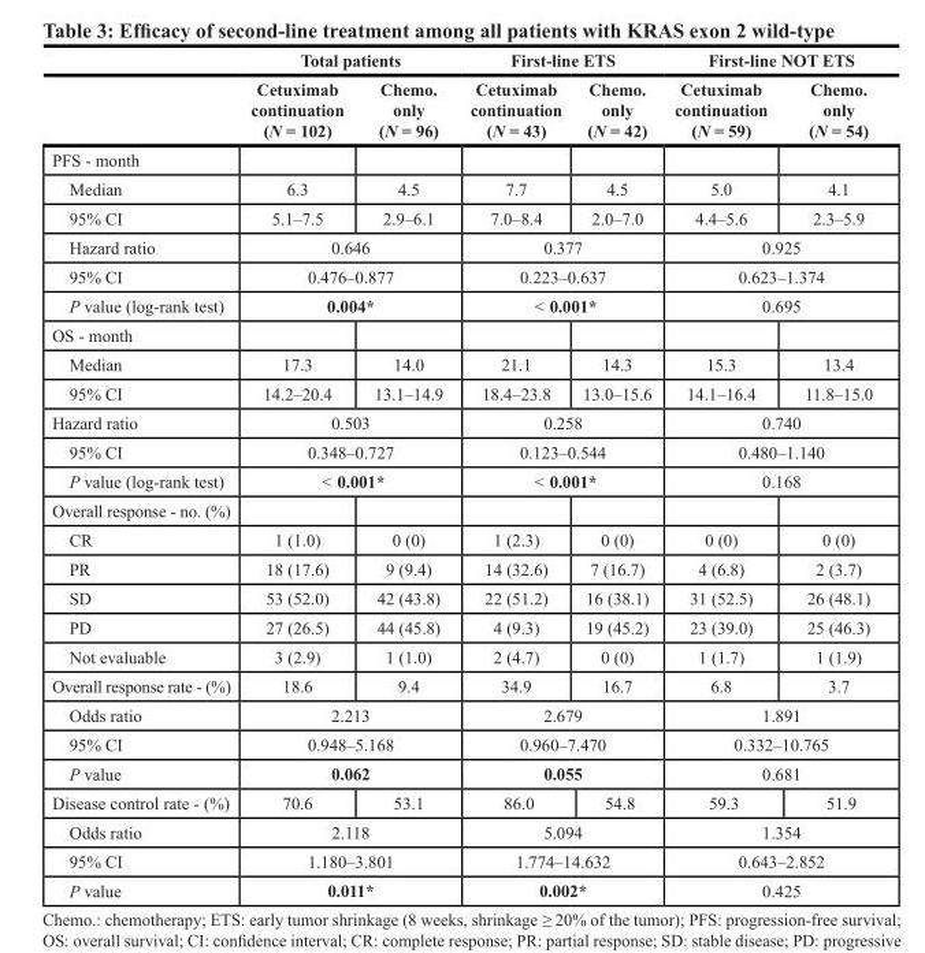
<table><thead><tr><td rowspan="2"></td><td colspan="2">Total patients</td><td colspan="2">First-line ETS</td><td colspan="2">First-line NOT ETS</td></tr><tr><td>Cetuximab continuation (N = 102)</td><td>Chemo. only (N = 96)</td><td>Cetuximab continuation (N = 43)</td><td>Chemo. only (N = 42)</td><td>Cetuximab continuation (N = 59)</td><td>Chemo. only (N = 54)</td></tr></thead><tbody><tr><td colspan="7">PFS - month</td></tr><tr><td>Median</td><td>6.3</td><td>4.5</td><td>7.7</td><td>4.5</td><td>5.0</td><td>4.1</td></tr><tr><td>95% CI</td><td>5.1–7.5</td><td>2.9–6.1</td><td>7.0–8.4</td><td>2.0–7.0</td><td>4.4–5.6</td><td>2.3–5.9</td></tr><tr><td>Hazard ratio</td><td colspan="2">0.646</td><td colspan="2">0.377</td><td colspan="2">0.925</td></tr><tr><td>95% CI</td><td colspan="2">0.476–0.877</td><td colspan="2">0.223–0.637</td><td colspan="2">0.623–1.374</td></tr><tr><td>P value (log-rank test)</td><td colspan="2">0.004*</td><td colspan="2">&lt; 0.001*</td><td colspan="2">0.695</td></tr><tr><td colspan="7">OS - month</td></tr><tr><td>Median</td><td>17.3</td><td>14.0</td><td>21.1</td><td>14.3</td><td>15.3</td><td>13.4</td></tr><tr><td>95% CI</td><td>14.2–20.4</td><td>13.1–14.9</td><td>18.4–23.8</td><td>13.0–15.6</td><td>14.1–16.4</td><td>11.8–15.0</td></tr><tr><td>Hazard ratio</td><td colspan="2">0.503</td><td colspan="2">0.258</td><td colspan="2">0.740</td></tr><tr><td>95% CI</td><td colspan="2">0.348–0.727</td><td colspan="2">0.123–0.544</td><td colspan="2">0.480–1.140</td></tr><tr><td>P value (log-rank test)</td><td colspan="2">&lt; 0.001*</td><td colspan="2">&lt; 0.001*</td><td colspan="2">0.168</td></tr><tr><td colspan="7">Overall response - no. (%)</td></tr><tr><td>CR</td><td>1 (1.0)</td><td>0 (0)</td><td>1 (2.3)</td><td>0 (0)</td><td>0 (0)</td><td>0 (0)</td></tr><tr><td>PR</td><td>18 (17.6)</td><td>9 (9.4)</td><td>14 (32.6)</td><td>7 (16.7)</td><td>4 (6.8)</td><td>2 (3.7)</td></tr><tr><td>SD</td><td>53 (52.0)</td><td>42 (43.8)</td><td>22 (51.2)</td><td>16 (38.1)</td><td>31 (52.5)</td><td>26 (48.1)</td></tr><tr><td>PD</td><td>27 (26.5)</td><td>44 (45.8)</td><td>4 (9.3)</td><td>19 (45.2)</td><td>23 (39.0)</td><td>25 (46.3)</td></tr><tr><td>Not evaluable</td><td>3 (2.9)</td><td>1 (1.0)</td><td>2 (4.7)</td><td>0 (0)</td><td>1 (1.7)</td><td>1 (1.9)</td></tr><tr><td>Overall response rate - (%)</td><td>18.6</td><td>9.4</td><td>34.9</td><td>16.7</td><td>6.8</td><td>3.7</td></tr><tr><td>Odds ratio</td><td colspan="2">2.213</td><td colspan="2">2.679</td><td colspan="2">1.891</td></tr><tr><td>95% CI</td><td colspan="2">0.948–5.168</td><td colspan="2">0.960–7.470</td><td colspan="2">0.332–10.765</td></tr><tr><td>P value</td><td colspan="2">0.062</td><td colspan="2">0.055</td><td colspan="2">0.681</td></tr><tr><td>Disease control rate - (%)</td><td>70.6</td><td>53.1</td><td>86.0</td><td>54.8</td><td>59.3</td><td>51.9</td></tr><tr><td>Odds ratio</td><td colspan="2">2.118</td><td colspan="2">5.094</td><td colspan="2">1.354</td></tr><tr><td>95% CI</td><td colspan="2">1.180–3.801</td><td colspan="2">1.774–14.632</td><td colspan="2">0.643–2.852</td></tr><tr><td>P value</td><td colspan="2">0.011*</td><td colspan="2">0.002*</td><td colspan="2">0.425</td></tr></tbody></table>